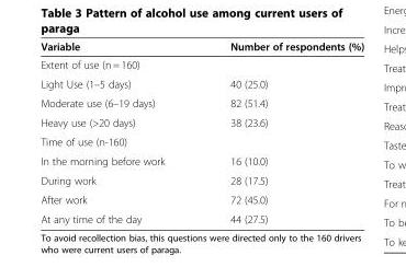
<table><thead><tr><td>Variable</td><td>Number of respondents (%)</td></tr></thead><tbody><tr><td colspan="2">Extent of use (n = 160)</td></tr><tr><td>Light Use (1–5 days)</td><td>40 (25.0)</td></tr><tr><td>Moderate use (6–19 days)</td><td>82 (51.4)</td></tr><tr><td>Heavy use (&gt;20 days)</td><td>38 (23.6)</td></tr><tr><td colspan="2">Time of use (n-160)</td></tr><tr><td>In the morning before work</td><td>16 (10.0)</td></tr><tr><td>During work</td><td>28 (17.5)</td></tr><tr><td>After work</td><td>72 (45.0)</td></tr><tr><td>At any time of the day</td><td>44 (27.5)</td></tr></tbody></table>